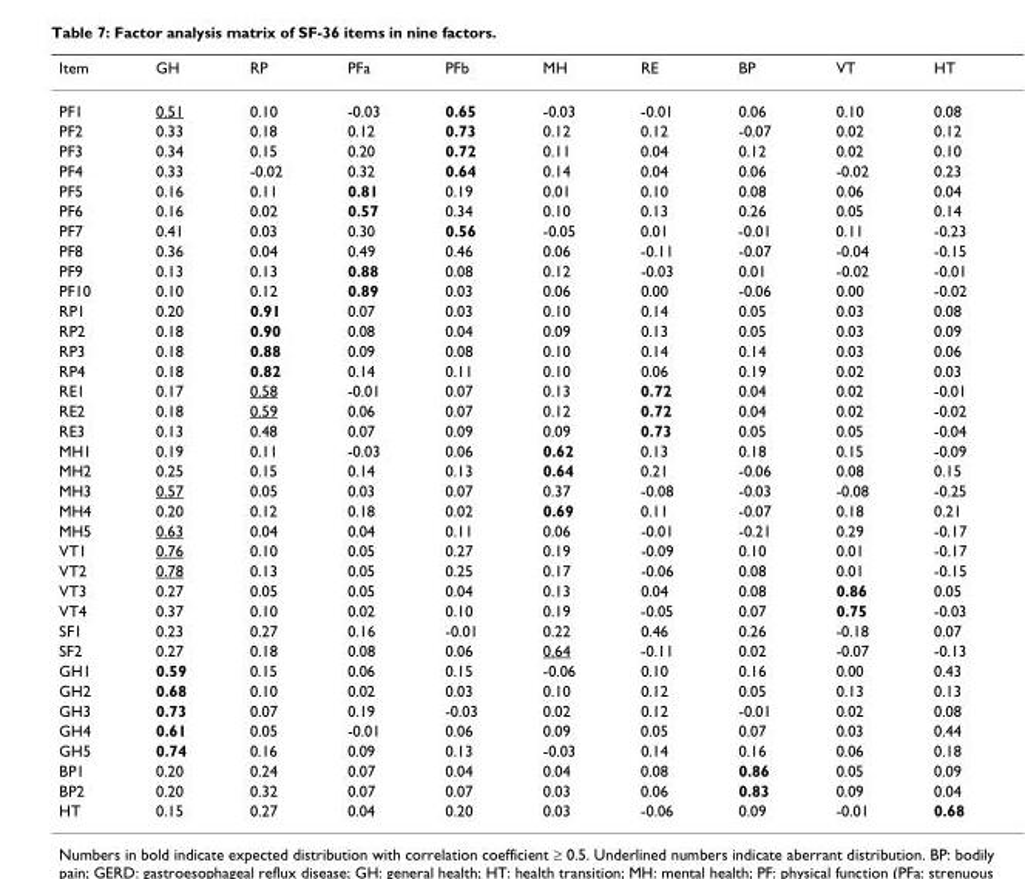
<table><thead><tr><td>Item</td><td>GH</td><td>RP</td><td>PFa</td><td>PFb</td><td>MH</td><td>RE</td><td>BP</td><td>VT</td><td>HT</td></tr></thead><tbody><tr><td>PF1</td><td>0.51</td><td>0.10</td><td>-0.03</td><td>0.65</td><td>-0.03</td><td>-0.01</td><td>0.06</td><td>0.10</td><td>0.08</td></tr><tr><td>PF2</td><td>0.33</td><td>0.18</td><td>0.12</td><td>0.73</td><td>0.12</td><td>0.12</td><td>-0.07</td><td>0.02</td><td>0.12</td></tr><tr><td>PF3</td><td>0.34</td><td>0.15</td><td>0.20</td><td>0.72</td><td>0.11</td><td>0.04</td><td>0.12</td><td>0.02</td><td>0.10</td></tr><tr><td>PF4</td><td>0.33</td><td>-0.02</td><td>0.32</td><td>0.64</td><td>0.14</td><td>0.04</td><td>0.06</td><td>-0.02</td><td>0.23</td></tr><tr><td>PF5</td><td>0.16</td><td>0.11</td><td>0.81</td><td>0.19</td><td>0.01</td><td>0.10</td><td>0.08</td><td>0.06</td><td>0.04</td></tr><tr><td>PF6</td><td>0.16</td><td>0.02</td><td>0.57</td><td>0.34</td><td>0.10</td><td>0.13</td><td>0.26</td><td>0.05</td><td>0.14</td></tr><tr><td>PF7</td><td>0.41</td><td>0.03</td><td>0.30</td><td>0.56</td><td>-0.05</td><td>0.01</td><td>-0.01</td><td>0.11</td><td>-0.23</td></tr><tr><td>PF8</td><td>0.36</td><td>0.04</td><td>0.49</td><td>0.46</td><td>0.06</td><td>-0.11</td><td>-0.07</td><td>-0.04</td><td>-0.15</td></tr><tr><td>PF9</td><td>0.13</td><td>0.13</td><td>0.88</td><td>0.08</td><td>0.12</td><td>-0.03</td><td>0.01</td><td>-0.02</td><td>-0.01</td></tr><tr><td>PF10</td><td>0.10</td><td>0.12</td><td>0.89</td><td>0.03</td><td>0.06</td><td>0.00</td><td>-0.06</td><td>0.00</td><td>-0.02</td></tr><tr><td>RP1</td><td>0.20</td><td>0.91</td><td>0.07</td><td>0.03</td><td>0.10</td><td>0.14</td><td>0.05</td><td>0.03</td><td>0.08</td></tr><tr><td>RP2</td><td>0.18</td><td>0.90</td><td>0.08</td><td>0.04</td><td>0.09</td><td>0.13</td><td>0.05</td><td>0.03</td><td>0.09</td></tr><tr><td>RP3</td><td>0.18</td><td>0.88</td><td>0.09</td><td>0.08</td><td>0.10</td><td>0.14</td><td>0.14</td><td>0.03</td><td>0.06</td></tr><tr><td>RP4</td><td>0.18</td><td>0.82</td><td>0.14</td><td>0.11</td><td>0.10</td><td>0.06</td><td>0.19</td><td>0.02</td><td>0.03</td></tr><tr><td>RE1</td><td>0.17</td><td>0.58</td><td>-0.01</td><td>0.07</td><td>0.13</td><td>0.72</td><td>0.04</td><td>0.02</td><td>-0.01</td></tr><tr><td>RE2</td><td>0.18</td><td>0.59</td><td>0.06</td><td>0.07</td><td>0.12</td><td>0.72</td><td>0.04</td><td>0.02</td><td>-0.02</td></tr><tr><td>RE3</td><td>0.13</td><td>0.48</td><td>0.07</td><td>0.09</td><td>0.09</td><td>0.73</td><td>0.05</td><td>0.05</td><td>-0.04</td></tr><tr><td>MH1</td><td>0.19</td><td>0.11</td><td>-0.03</td><td>0.06</td><td>0.62</td><td>0.13</td><td>0.18</td><td>0.15</td><td>-0.09</td></tr><tr><td>MH2</td><td>0.25</td><td>0.15</td><td>0.14</td><td>0.13</td><td>0.64</td><td>0.21</td><td>-0.06</td><td>0.08</td><td>0.15</td></tr><tr><td>MH3</td><td>0.57</td><td>0.05</td><td>0.03</td><td>0.07</td><td>0.37</td><td>-0.08</td><td>-0.03</td><td>-0.08</td><td>-0.25</td></tr><tr><td>MH4</td><td>0.20</td><td>0.12</td><td>0.18</td><td>0.02</td><td>0.69</td><td>0.11</td><td>-0.07</td><td>0.18</td><td>0.21</td></tr><tr><td>MH5</td><td>0.63</td><td>0.04</td><td>0.04</td><td>0.11</td><td>0.06</td><td>-0.01</td><td>-0.21</td><td>0.29</td><td>-0.17</td></tr><tr><td>VT1</td><td>0.76</td><td>0.10</td><td>0.05</td><td>0.27</td><td>0.19</td><td>-0.09</td><td>0.10</td><td>0.01</td><td>-0.17</td></tr><tr><td>VT2</td><td>0.78</td><td>0.13</td><td>0.05</td><td>0.25</td><td>0.17</td><td>-0.06</td><td>0.08</td><td>0.01</td><td>-0.15</td></tr><tr><td>VT3</td><td>0.27</td><td>0.05</td><td>0.05</td><td>0.04</td><td>0.13</td><td>0.04</td><td>0.08</td><td>0.86</td><td>0.05</td></tr><tr><td>VT4</td><td>0.37</td><td>0.10</td><td>0.02</td><td>0.10</td><td>0.19</td><td>-0.05</td><td>0.07</td><td>0.75</td><td>-0.03</td></tr><tr><td>SF1</td><td>0.23</td><td>0.27</td><td>0.16</td><td>-0.01</td><td>0.22</td><td>0.46</td><td>0.26</td><td>-0.18</td><td>0.07</td></tr><tr><td>SF2</td><td>0.27</td><td>0.18</td><td>0.08</td><td>0.06</td><td>0.64</td><td>-0.11</td><td>0.02</td><td>-0.07</td><td>-0.13</td></tr><tr><td>GH1</td><td>0.59</td><td>0.15</td><td>0.06</td><td>0.15</td><td>-0.06</td><td>0.10</td><td>0.16</td><td>0.00</td><td>0.43</td></tr><tr><td>GH2</td><td>0.68</td><td>0.10</td><td>0.02</td><td>0.03</td><td>0.10</td><td>0.12</td><td>0.05</td><td>0.13</td><td>0.13</td></tr><tr><td>GH3</td><td>0.73</td><td>0.07</td><td>0.19</td><td>-0.03</td><td>0.02</td><td>0.12</td><td>-0.01</td><td>0.02</td><td>0.08</td></tr><tr><td>GH4</td><td>0.61</td><td>0.05</td><td>-0.01</td><td>0.06</td><td>0.09</td><td>0.05</td><td>0.07</td><td>0.03</td><td>0.44</td></tr><tr><td>GH5</td><td>0.74</td><td>0.16</td><td>0.09</td><td>0.13</td><td>-0.03</td><td>0.14</td><td>0.16</td><td>0.06</td><td>0.18</td></tr><tr><td>BP1</td><td>0.20</td><td>0.24</td><td>0.07</td><td>0.04</td><td>0.04</td><td>0.08</td><td>0.86</td><td>0.05</td><td>0.09</td></tr><tr><td>BP2</td><td>0.20</td><td>0.32</td><td>0.07</td><td>0.07</td><td>0.03</td><td>0.06</td><td>0.83</td><td>0.09</td><td>0.04</td></tr><tr><td>HT</td><td>0.15</td><td>0.27</td><td>0.04</td><td>0.20</td><td>0.03</td><td>-0.06</td><td>0.09</td><td>-0.01</td><td>0.68</td></tr></tbody></table>